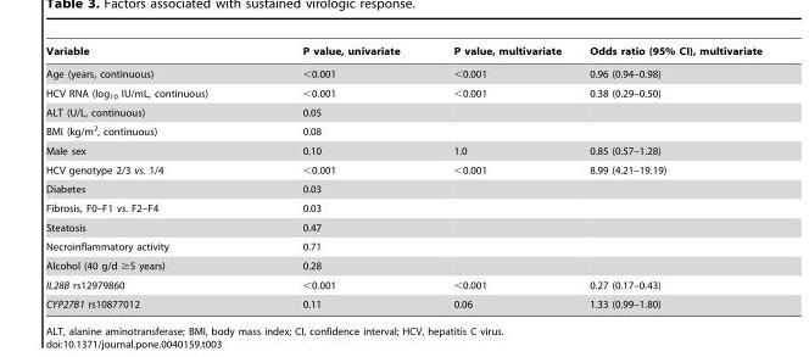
<table><thead><tr><td>Variable</td><td>P value, univariate</td><td>P value, multivariate</td><td>Odds ratio (95% CI), multivariate</td></tr></thead><tbody><tr><td>Age (years, continuous)</td><td>&lt;0.001</td><td>&lt;0.001</td><td>0.96 (0.94–0.98)</td></tr><tr><td>HCV RNA (log<sub>10</sub> IU/mL, continuous)</td><td>&lt;0.001</td><td>&lt;0.001</td><td>0.38 (0.29–0.50)</td></tr><tr><td>ALT (U/L, continuous)</td><td>0.05</td><td></td><td></td></tr><tr><td>BMI (kg/m<sup>2</sup>, continuous)</td><td>0.08</td><td></td><td></td></tr><tr><td>Male sex</td><td>0.10</td><td>1.0</td><td>0.85 (0.57–1.28)</td></tr><tr><td>HCV genotype 2/3 vs. 1/4</td><td>&lt;0.001</td><td>&lt;0.001</td><td>8.99 (4.21–19.19)</td></tr><tr><td>Diabetes</td><td>0.03</td><td></td><td></td></tr><tr><td>Fibrosis, F0–F1 vs. F2–F4</td><td>0.03</td><td></td><td></td></tr><tr><td>Steatosis</td><td>0.47</td><td></td><td></td></tr><tr><td>Necroinflammatory activity</td><td>0.71</td><td></td><td></td></tr><tr><td>Alcohol (40 g/d ≥5 years)</td><td>0.28</td><td></td><td></td></tr><tr><td>IL28B rs12979860</td><td>&lt;0.001</td><td>&lt;0.001</td><td>0.27 (0.17–0.43)</td></tr><tr><td>CYP27B1 rs10877012</td><td>0.11</td><td>0.06</td><td>1.33 (0.99–1.80)</td></tr></tbody></table>